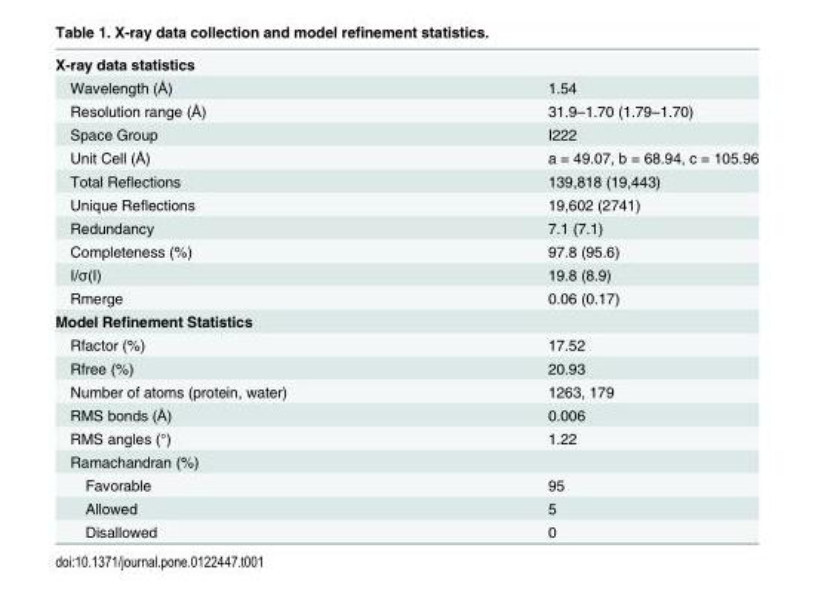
<table><tbody><tr><td colspan="2">X-ray data statistics</td></tr><tr><td>Wavelength (Å)</td><td>1.54</td></tr><tr><td>Resolution range (Å)</td><td>31.9–1.70 (1.79–1.70)</td></tr><tr><td>Space Group</td><td>I222</td></tr><tr><td>Unit Cell (Å)</td><td>a = 49.07, b = 68.94, c = 105.96</td></tr><tr><td>Total Reflections</td><td>139,818 (19,443)</td></tr><tr><td>Unique Reflections</td><td>19,602 (2741)</td></tr><tr><td>Redundancy</td><td>7.1 (7.1)</td></tr><tr><td>Completeness (%)</td><td>97.8 (95.6)</td></tr><tr><td>I/σ(I)</td><td>19.8 (8.9)</td></tr><tr><td>Rmerge</td><td>0.06 (0.17)</td></tr><tr><td colspan="2">Model Refinement Statistics</td></tr><tr><td>Rfactor (%)</td><td>17.52</td></tr><tr><td>Rfree (%)</td><td>20.93</td></tr><tr><td>Number of atoms (protein, water)</td><td>1263, 179</td></tr><tr><td>RMS bonds (Å)</td><td>0.006</td></tr><tr><td>RMS angles (°)</td><td>1.22</td></tr><tr><td colspan="2">Ramachandran (%)</td></tr><tr><td>Favorable</td><td>95</td></tr><tr><td>Allowed</td><td>5</td></tr><tr><td>Disallowed</td><td>0</td></tr></tbody></table>